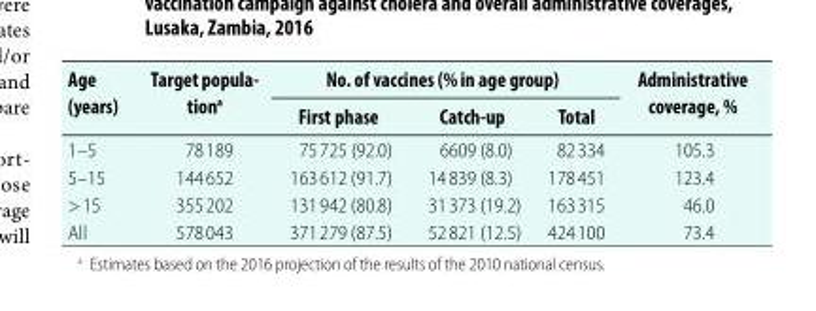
<table><thead><tr><td rowspan="2">Age (years)</td><td rowspan="2">Target popula- tiona</td><td colspan="3">No. of vaccines (% in age group)</td><td rowspan="2">Administrative coverage, %</td></tr><tr><td>First phase</td><td>Catch-up</td><td>Total</td></tr></thead><tbody><tr><td>1–5</td><td>78 189</td><td>75 725 (92.0)</td><td>6609 (8.0)</td><td>82 334</td><td>105.3</td></tr><tr><td>5–15</td><td>144 652</td><td>163 612 (91.7)</td><td>14 839 (8.3)</td><td>178 451</td><td>123.4</td></tr><tr><td>&gt; 15</td><td>355 202</td><td>131 942 (80.8)</td><td>31 373 (19.2)</td><td>163 315</td><td>46.0</td></tr><tr><td>All</td><td>578 043</td><td>371 279 (87.5)</td><td>52 821 (12.5)</td><td>424 100</td><td>73.4</td></tr></tbody></table>